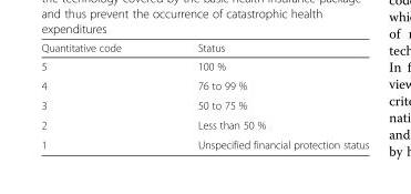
<table><thead><tr><td>Quantitative code</td><td>Status</td></tr></thead><tbody><tr><td>5</td><td>100 %</td></tr><tr><td>4</td><td>76 to 99 %</td></tr><tr><td>3</td><td>50 to 75 %</td></tr><tr><td>2</td><td>Less than 50 %</td></tr><tr><td>1</td><td>Unspecified financial protection status</td></tr></tbody></table>